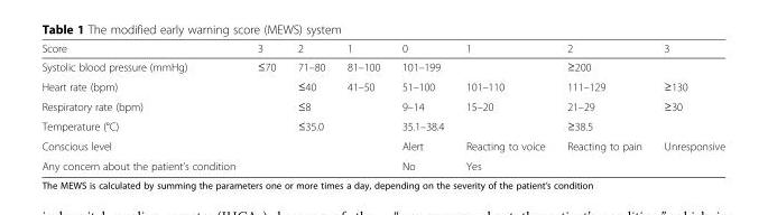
<table><thead><tr><td>Score</td><td>3</td><td>2</td><td>1</td><td>0</td><td>1</td><td>2</td><td>3</td></tr></thead><tbody><tr><td>Systolic blood pressure (mmHg)</td><td>≤70</td><td>71–80</td><td>81–100</td><td>101–199</td><td></td><td>≥200</td><td></td></tr><tr><td>Heart rate (bpm)</td><td></td><td>≤40</td><td>41–50</td><td>51–100</td><td>101–110</td><td>111–129</td><td>≥130</td></tr><tr><td>Respiratory rate (bpm)</td><td></td><td>≤8</td><td></td><td>9–14</td><td>15–20</td><td>21–29</td><td>≥30</td></tr><tr><td>Temperature (°C)</td><td></td><td>≤35.0</td><td></td><td>35.1–38.4</td><td></td><td>≥38.5</td><td></td></tr><tr><td>Conscious level</td><td></td><td></td><td></td><td>Alert</td><td>Reacting to voice</td><td>Reacting to pain</td><td>Unresponsive</td></tr><tr><td>Any concern about the patient’s condition</td><td></td><td></td><td></td><td>No</td><td>Yes</td><td></td><td></td></tr></tbody></table>